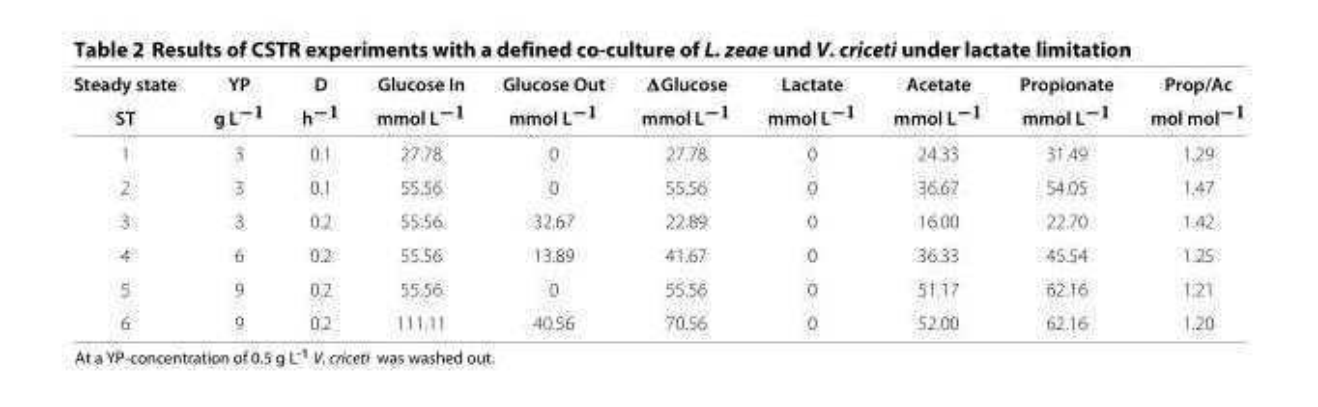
<table><thead><tr><td rowspan="2">Steady state ST</td><td rowspan="2">YP g L<sup>−1</sup></td><td rowspan="2">D h<sup>−1</sup></td><td rowspan="2">Glucose In mmol L<sup>−1</sup></td><td rowspan="2">Glucose Out mmol L<sup>−1</sup></td><td rowspan="2">ΔGlucose mmol L<sup>−1</sup></td><td rowspan="2">Lactate mmol L<sup>−1</sup></td><td rowspan="2">Acetate mmol L<sup>−1</sup></td><td rowspan="2">Propionate mmol L<sup>−1</sup></td><td rowspan="2">Prop/Ac mol mol<sup>−1</sup></td></tr><tr></tr></thead><tbody><tr><td>1</td><td>3</td><td>0.1</td><td>27.78</td><td>0</td><td>27.78</td><td>0</td><td>24.33</td><td>31.49</td><td>1.29</td></tr><tr><td>2</td><td>3</td><td>0.1</td><td>55.56</td><td>0</td><td>55.56</td><td>0</td><td>36.67</td><td>54.05</td><td>1.47</td></tr><tr><td>3</td><td>3</td><td>0.2</td><td>55.56</td><td>32.67</td><td>22.89</td><td>0</td><td>16.00</td><td>22.70</td><td>1.42</td></tr><tr><td>4</td><td>6</td><td>0.2</td><td>55.56</td><td>13.89</td><td>41.67</td><td>0</td><td>36.33</td><td>45.54</td><td>1.25</td></tr><tr><td>5</td><td>9</td><td>0.2</td><td>55.56</td><td>0</td><td>55.56</td><td>0</td><td>51.17</td><td>62.16</td><td>1.21</td></tr><tr><td>6</td><td>9</td><td>0.2</td><td>111.11</td><td>40.56</td><td>70.56</td><td>0</td><td>52.00</td><td>62.16</td><td>1.20</td></tr></tbody></table>